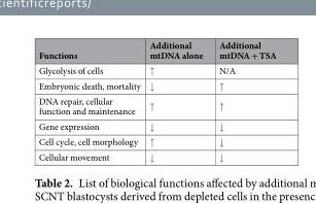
<table><thead><tr><td>Functions</td><td>Additional mtDNA alone</td><td>Additional mtDNA + TSA</td></tr></thead><tbody><tr><td>Glycolysis of cells</td><td>↑</td><td>N/A</td></tr><tr><td>Embryonic death, mortality</td><td>↓</td><td>↑</td></tr><tr><td>DNA repair, cellular function and maintenance</td><td>↑</td><td>↑</td></tr><tr><td>Gene expression</td><td>↓</td><td>↓</td></tr><tr><td>Cell cycle, cell morphology</td><td>↑</td><td>↓</td></tr><tr><td>Cellular movement</td><td>↓</td><td>↓</td></tr></tbody></table>